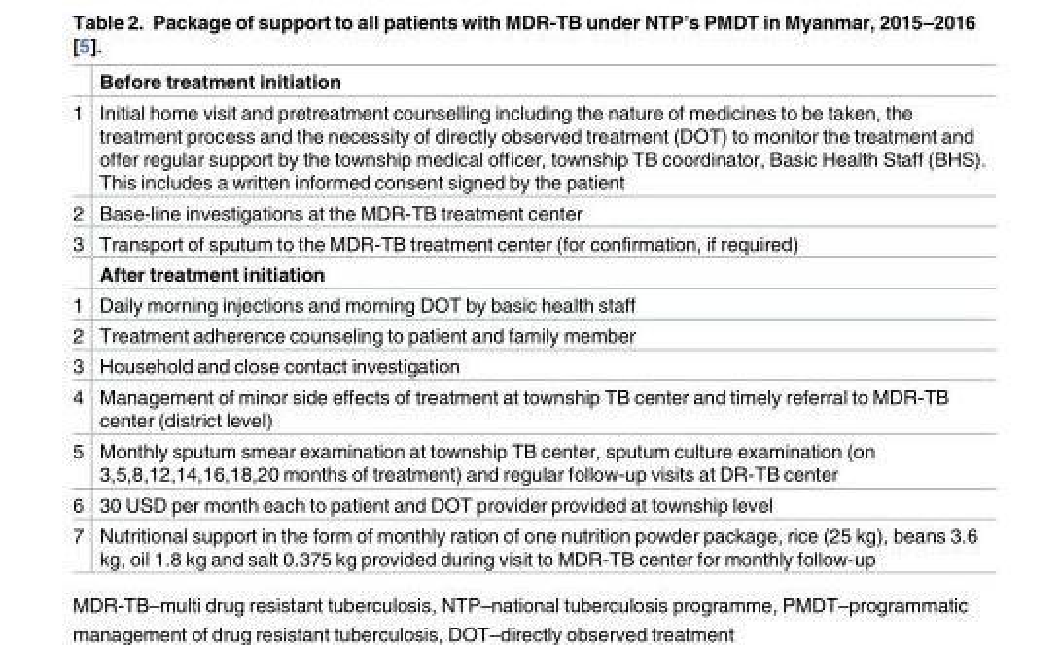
<table><thead><tr><td></td><td>Before treatment initiation</td></tr></thead><tbody><tr><td>1</td><td>Initial home visit and pretreatment counselling including the nature of medicines to be taken, the treatment process and the necessity of directly observed treatment (DOT) to monitor the treatment and offer regular support by the township medical officer, township TB coordinator, Basic Health Staff (BHS). This includes a written informed consent signed by the patient</td></tr><tr><td>2</td><td>Base-line investigations at the MDR-TB treatment center</td></tr><tr><td rowspan="2">3</td><td>Transport of sputum to the MDR-TB treatment center (for confirmation, if required)</td></tr><tr><td>After treatment initiation</td></tr><tr><td>1</td><td>Daily morning injections and morning DOT by basic health staff</td></tr><tr><td>2</td><td>Treatment adherence counseling to patient and family member</td></tr><tr><td>3</td><td>Household and close contact investigation</td></tr><tr><td>4</td><td>Management of minor side effects of treatment at township TB center and timely referral to MDR-TB center (district level)</td></tr><tr><td>5</td><td>Monthly sputum smear examination at township TB center, sputum culture examination (on 3,5,8,12,14,16,18,20 months of treatment) and regular follow-up visits at DR-TB center</td></tr><tr><td>6</td><td>30 USD per month each to patient and DOT provider provided at township level</td></tr><tr><td>7</td><td>Nutritional support in the form of monthly ration of one nutrition powder package, rice (25 kg), beans 3.6 kg, oil 1.8 kg and salt 0.375 kg provided during visit to MDR-TB center for monthly follow-up</td></tr></tbody></table>